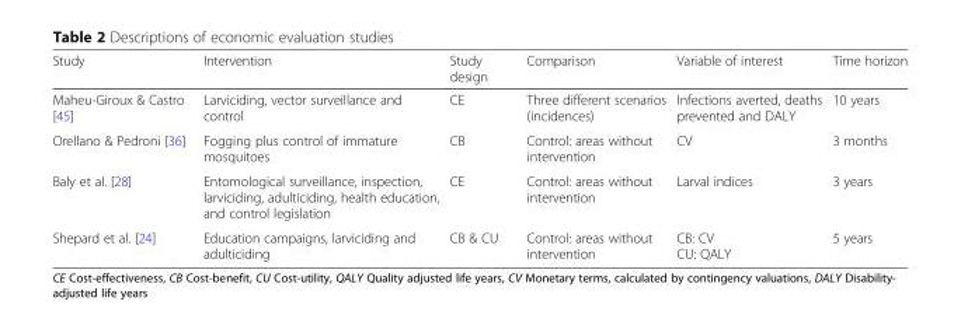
<table><thead><tr><td>Study</td><td>Intervention</td><td>Study design</td><td>Comparison</td><td>Variable of interest</td><td>Time horizon</td></tr></thead><tbody><tr><td>Maheu-Giroux &amp; Castro [45]</td><td>Larviciding, vector surveillance and control</td><td>CE</td><td>Three different scenarios (incidences)</td><td>Infections averted, deaths prevented and DALY</td><td>10 years</td></tr><tr><td>Orellano &amp; Pedroni [36]</td><td>Fogging plus control of immature mosquitoes</td><td>CB</td><td>Control: areas without intervention</td><td>CV</td><td>3 months</td></tr><tr><td>Baly et al. [28]</td><td>Entomological surveillance, inspection, larviciding, adulticiding, health education, and control legislation</td><td>CE</td><td>Control: areas without intervention</td><td>Larval indices</td><td>3 years</td></tr><tr><td>Shepard et al. [24]</td><td>Education campaigns, larviciding and adulticiding</td><td>CB &amp; CU</td><td>Control: areas without intervention</td><td>CB: CV CU: QALY</td><td>5 years</td></tr></tbody></table>